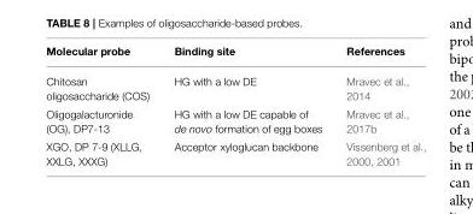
<table><thead><tr><td>Molecular probe</td><td>Binding site</td><td>References</td></tr></thead><tbody><tr><td>Chitosan oligosaccharide (COS)</td><td>HG with a low DE</td><td>Mravec et al., 2014</td></tr><tr><td>Oligogalacturonide (OG), DP7-13</td><td>HG with a low DE capable of de novo formation of egg boxes</td><td>Mravec et al., 2017b</td></tr><tr><td>XGO, DP 7-9 (XLLG, XXLG, XXXG)</td><td>Acceptor xyloglucan backbone</td><td>Vissenberg et al., 2000, 2001</td></tr></tbody></table>